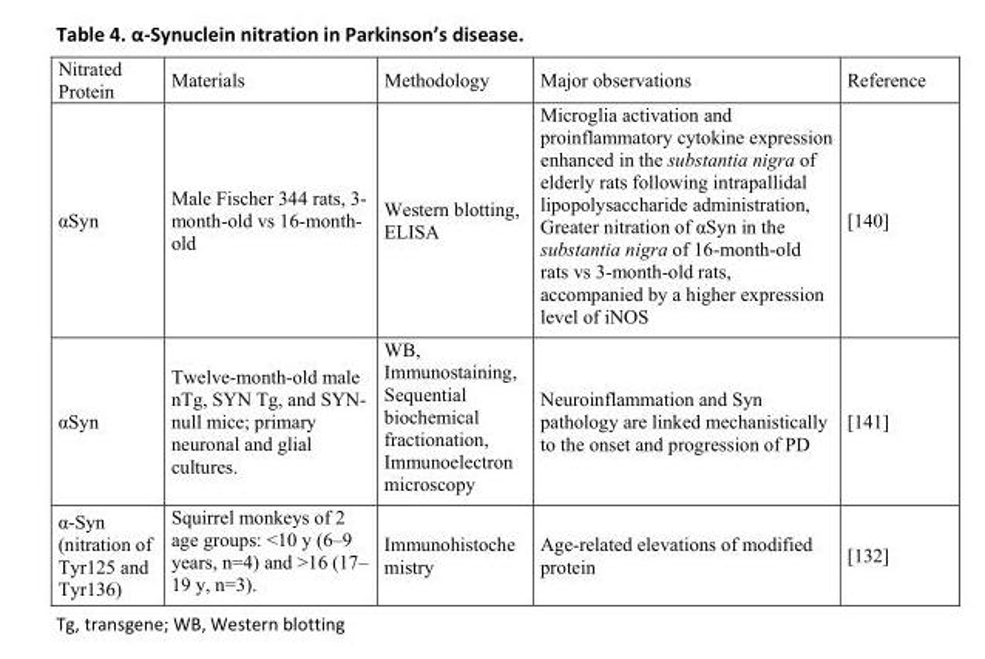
<table><tbody><tr><td>Nitrated Protein</td><td>Materials</td><td>Methodology</td><td>Major observations</td><td>Reference</td></tr><tr><td>αSyn</td><td>Male Fischer 344 rats, 3- month-old vs 16-month- old</td><td>Western blotting, ELISA</td><td>Microglia activation and proinflammatory cytokine expression enhanced in the substantia nigra of elderly rats following intrapallidal lipopolysaccharide administration, Greater nitration of αSyn in the substantia nigra of 16-month-old rats vs 3-month-old rats, accompanied by a higher expression level of iNOS</td><td>[140]</td></tr><tr><td>αSyn</td><td>Twelve-month-old male nTg, SYN Tg, and SYN- null mice; primary neuronal and glial cultures.</td><td>WB, Immunostaining, Sequential biochemical fractionation, Immunoelectron microscopy</td><td>Neuroinflammation and Syn pathology are linked mechanistically to the onset and progression of PD</td><td>[141]</td></tr><tr><td>α-Syn (nitration of Tyr125 and Tyr136)</td><td>Squirrel monkeys of 2 age groups: &lt;10 y (6–9 years, n=4) and &gt;16 (17– 19 y, n=3).</td><td>Immunohistoche mistry</td><td>Age-related elevations of modified protein</td><td>[132]</td></tr></tbody></table>